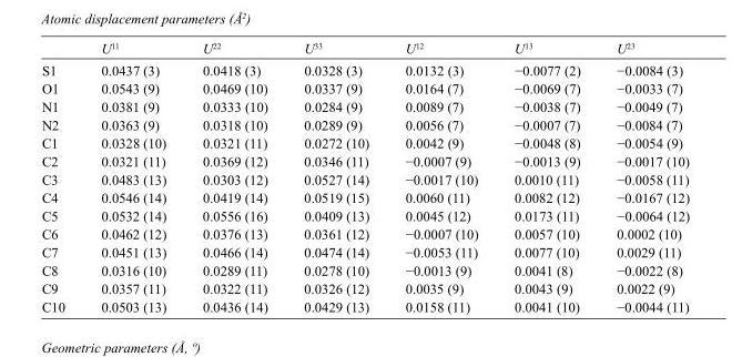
<table><thead><tr><td></td><td>U<sup>11</sup></td><td>U<sup>22</sup></td><td>U<sup>33</sup></td><td>U<sup>12</sup></td><td>U<sup>13</sup></td><td>U<sup>23</sup></td></tr></thead><tbody><tr><td>S1</td><td>0.0437 (3)</td><td>0.0418 (3)</td><td>0.0328 (3)</td><td>0.0132 (3)</td><td>−0.0077 (2)</td><td>−0.0084 (3)</td></tr><tr><td>O1</td><td>0.0543 (9)</td><td>0.0469 (10)</td><td>0.0337 (9)</td><td>0.0164 (7)</td><td>−0.0069 (7)</td><td>−0.0033 (7)</td></tr><tr><td>N1</td><td>0.0381 (9)</td><td>0.0333 (10)</td><td>0.0284 (9)</td><td>0.0089 (7)</td><td>−0.0038 (7)</td><td>−0.0049 (7)</td></tr><tr><td>N2</td><td>0.0363 (9)</td><td>0.0318 (10)</td><td>0.0289 (9)</td><td>0.0056 (7)</td><td>−0.0007 (7)</td><td>−0.0084 (7)</td></tr><tr><td>C1</td><td>0.0328 (10)</td><td>0.0321 (11)</td><td>0.0272 (10)</td><td>0.0042 (9)</td><td>−0.0048 (8)</td><td>−0.0054 (9)</td></tr><tr><td>C2</td><td>0.0321 (11)</td><td>0.0369 (12)</td><td>0.0346 (11)</td><td>−0.0007 (9)</td><td>−0.0013 (9)</td><td>−0.0017 (10)</td></tr><tr><td>C3</td><td>0.0483 (13)</td><td>0.0303 (12)</td><td>0.0527 (14)</td><td>−0.0017 (10)</td><td>0.0010 (11)</td><td>−0.0058 (11)</td></tr><tr><td>C4</td><td>0.0546 (14)</td><td>0.0419 (14)</td><td>0.0519 (15)</td><td>0.0060 (11)</td><td>0.0082 (12)</td><td>−0.0167 (12)</td></tr><tr><td>C5</td><td>0.0532 (14)</td><td>0.0556 (16)</td><td>0.0409 (13)</td><td>0.0045 (12)</td><td>0.0173 (11)</td><td>−0.0064 (12)</td></tr><tr><td>C6</td><td>0.0462 (12)</td><td>0.0376 (13)</td><td>0.0361 (12)</td><td>−0.0007 (10)</td><td>0.0057 (10)</td><td>0.0002 (10)</td></tr><tr><td>C7</td><td>0.0451 (13)</td><td>0.0466 (14)</td><td>0.0474 (14)</td><td>−0.0053 (11)</td><td>0.0077 (10)</td><td>0.0029 (11)</td></tr><tr><td>C8</td><td>0.0316 (10)</td><td>0.0289 (11)</td><td>0.0278 (10)</td><td>−0.0013 (9)</td><td>0.0041 (8)</td><td>−0.0022 (8)</td></tr><tr><td>C9</td><td>0.0357 (11)</td><td>0.0322 (11)</td><td>0.0326 (12)</td><td>0.0035 (9)</td><td>0.0043 (9)</td><td>0.0022 (9)</td></tr><tr><td>C10</td><td>0.0503 (13)</td><td>0.0436 (14)</td><td>0.0429 (13)</td><td>0.0158 (11)</td><td>0.0041 (10)</td><td>−0.0044 (11)</td></tr></tbody></table>